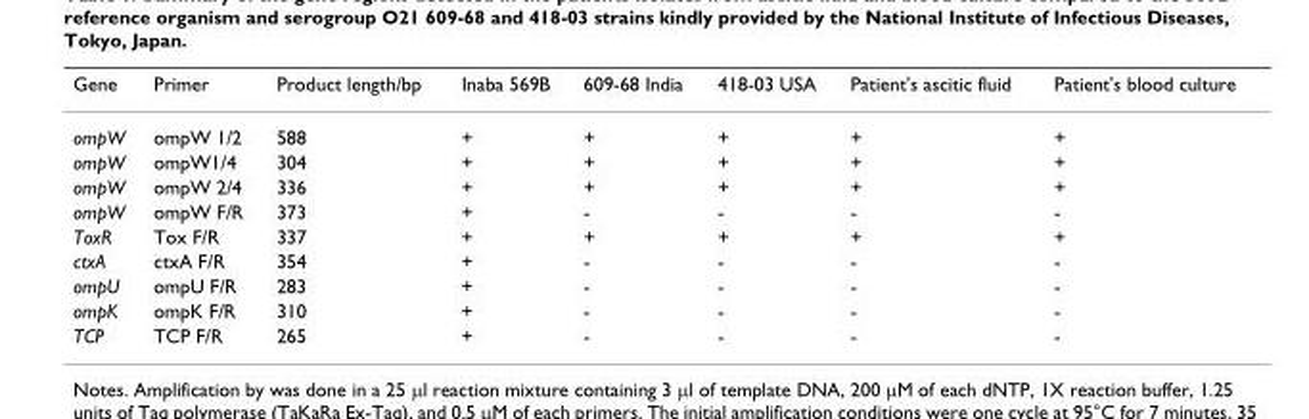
<table><thead><tr><td>Gene</td><td>Primer</td><td>Product length/bp</td><td>Inaba 569B</td><td>609-68 India</td><td>418-03 USA</td><td>Patient&#x27;s ascitic fluid</td><td>Patient&#x27;s blood culture</td></tr></thead><tbody><tr><td>ompW</td><td>ompW 1/2</td><td>588</td><td>+</td><td>+</td><td>+</td><td>+</td><td>+</td></tr><tr><td>ompW</td><td>ompW1/4</td><td>304</td><td>+</td><td>+</td><td>+</td><td>+</td><td>+</td></tr><tr><td>ompW</td><td>ompW 2/4</td><td>336</td><td>+</td><td>+</td><td>+</td><td>+</td><td>+</td></tr><tr><td>ompW</td><td>ompW F/R</td><td>373</td><td>+</td><td>-</td><td>-</td><td>-</td><td>-</td></tr><tr><td>ToxR</td><td>Tox F/R</td><td>337</td><td>+</td><td>+</td><td>+</td><td>+</td><td>+</td></tr><tr><td>ctxA</td><td>ctxA F/R</td><td>354</td><td>+</td><td>-</td><td>-</td><td>-</td><td>-</td></tr><tr><td>ompU</td><td>ompU F/R</td><td>283</td><td>+</td><td>-</td><td>-</td><td>-</td><td>-</td></tr><tr><td>ompK</td><td>ompK F/R</td><td>310</td><td>+</td><td>-</td><td>-</td><td>-</td><td>-</td></tr><tr><td>TCP</td><td>TCP F/R</td><td>265</td><td>+</td><td>-</td><td>-</td><td>-</td><td>-</td></tr></tbody></table>